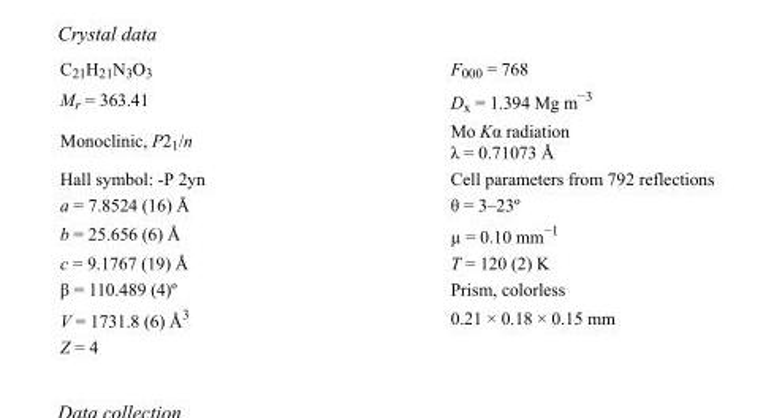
<table><tbody><tr><td>C<sub>21</sub>H<sub>21</sub>N<sub>3</sub>O<sub>3</sub></td><td>F<sub>000</sub> = 768</td></tr><tr><td>M<sub>r</sub> = 363.41</td><td>D<sub>x</sub> = 1.394 Mg m<sup>−3</sup></td></tr><tr><td>Monoclinic, P2<sub>1</sub>/n</td><td>Mo Kα radiation λ = 0.71073 Å</td></tr><tr><td>Hall symbol: -P 2yn</td><td>Cell parameters from 792 reflections</td></tr><tr><td>a = 7.8524 (16) Å</td><td>θ = 3–23º</td></tr><tr><td>b = 25.656 (6) Å</td><td>µ = 0.10 mm<sup>−1</sup></td></tr><tr><td>c = 9.1767 (19) Å</td><td>T = 120 (2) K</td></tr><tr><td>β = 110.489 (4)º</td><td>Prism, colorless</td></tr><tr><td>V = 1731.8 (6) Å<sup>3</sup></td><td>0.21 × 0.18 × 0.15 mm</td></tr><tr><td>Z = 4</td><td></td></tr></tbody></table>